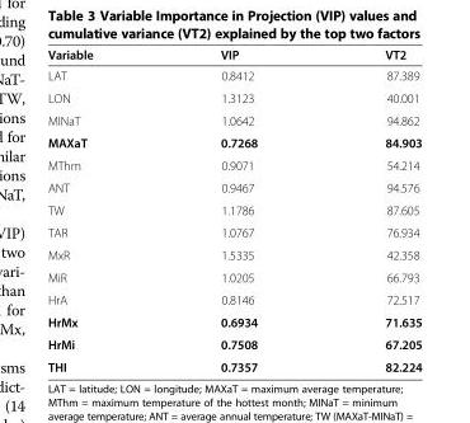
<table><thead><tr><td>Variable</td><td>VIP</td><td>VT2</td></tr></thead><tbody><tr><td>LAT</td><td>0.8412</td><td>87.389</td></tr><tr><td>LON</td><td>1.3123</td><td>40.001</td></tr><tr><td>MINaT</td><td>1.0642</td><td>94.862</td></tr><tr><td>MAXaT</td><td>0.7268</td><td>84.903</td></tr><tr><td>MThm</td><td>0.9071</td><td>54.214</td></tr><tr><td>ANT</td><td>0.9467</td><td>94.576</td></tr><tr><td>TW</td><td>1.1786</td><td>87.605</td></tr><tr><td>TAR</td><td>1.0767</td><td>76.934</td></tr><tr><td>MxR</td><td>1.5335</td><td>42.358</td></tr><tr><td>MiR</td><td>1.0205</td><td>66.793</td></tr><tr><td>HrA</td><td>0.8146</td><td>72.517</td></tr><tr><td>HrMx</td><td>0.6934</td><td>71.635</td></tr><tr><td>HrMi</td><td>0.7508</td><td>67.205</td></tr><tr><td>THI</td><td>0.7357</td><td>82.224</td></tr></tbody></table>